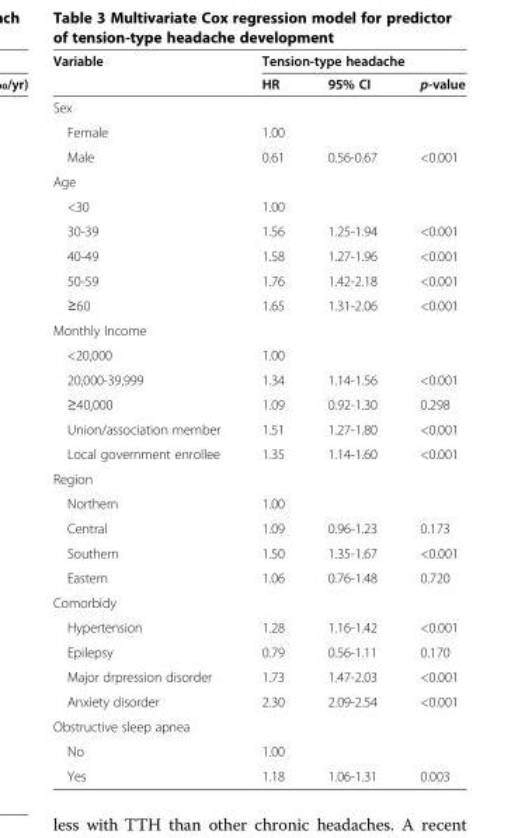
<table><thead><tr><td rowspan="2">Variable</td><td colspan="3">Tension-type headache</td></tr><tr><td>HR</td><td>95% CI</td><td>p-value</td></tr></thead><tbody><tr><td colspan="4">Sex</td></tr><tr><td>Female</td><td>1.00</td><td></td><td></td></tr><tr><td>Male</td><td>0.61</td><td>0.56-0.67</td><td>&lt;0.001</td></tr><tr><td colspan="4">Age</td></tr><tr><td>&lt;30</td><td>1.00</td><td></td><td></td></tr><tr><td>30-39</td><td>1.56</td><td>1.25-1.94</td><td>&lt;0.001</td></tr><tr><td>40-49</td><td>1.58</td><td>1.27-1.96</td><td>&lt;0.001</td></tr><tr><td>50-59</td><td>1.76</td><td>1.42-2.18</td><td>&lt;0.001</td></tr><tr><td>≥60</td><td>1.65</td><td>1.31-2.06</td><td>&lt;0.001</td></tr><tr><td colspan="4">Monthly Income</td></tr><tr><td>&lt;20,000</td><td>1.00</td><td></td><td></td></tr><tr><td>20,000-39,999</td><td>1.34</td><td>1.14-1.56</td><td>&lt;0.001</td></tr><tr><td>≥40,000</td><td>1.09</td><td>0.92-1.30</td><td>0.298</td></tr><tr><td>Union/association member</td><td>1.51</td><td>1.27-1.80</td><td>&lt;0.001</td></tr><tr><td>Local government enrollee</td><td>1.35</td><td>1.14-1.60</td><td>&lt;0.001</td></tr><tr><td colspan="4">Region</td></tr><tr><td>Northern</td><td>1.00</td><td></td><td></td></tr><tr><td>Central</td><td>1.09</td><td>0.96-1.23</td><td>0.173</td></tr><tr><td>Southern</td><td>1.50</td><td>1.35-1.67</td><td>&lt;0.001</td></tr><tr><td>Eastern</td><td>1.06</td><td>0.76-1.48</td><td>0.720</td></tr><tr><td colspan="4">Comorbidy</td></tr><tr><td>Hypertension</td><td>1.28</td><td>1.16-1.42</td><td>&lt;0.001</td></tr><tr><td>Epilepsy</td><td>0.79</td><td>0.56-1.11</td><td>0.170</td></tr><tr><td>Major drpression disorder</td><td>1.73</td><td>1.47-2.03</td><td>&lt;0.001</td></tr><tr><td>Anxiety disorder</td><td>2.30</td><td>2.09-2.54</td><td>&lt;0.001</td></tr><tr><td colspan="4">Obstructive sleep apnea</td></tr><tr><td>No</td><td>1.00</td><td></td><td></td></tr><tr><td>Yes</td><td>1.18</td><td>1.06-1.31</td><td>0.003</td></tr></tbody></table>